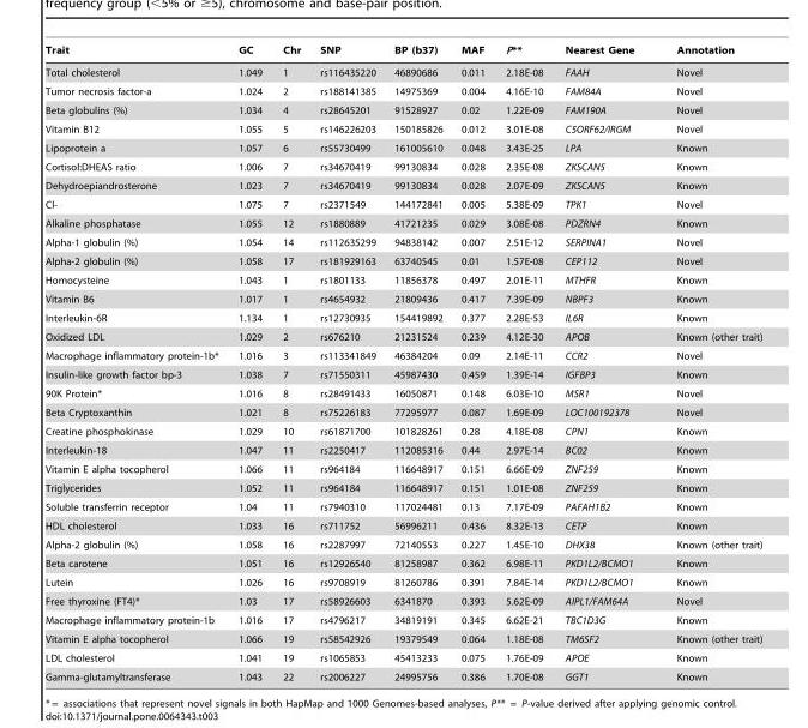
<table><thead><tr><td>Trait</td><td>GC</td><td>Chr</td><td>SNP</td><td>BP (b37)</td><td>MAF</td><td>P**</td><td>Nearest Gene</td><td>Annotation</td></tr></thead><tbody><tr><td>Total cholesterol</td><td>1.049</td><td>1</td><td>rs116435220</td><td>46890686</td><td>0.011</td><td>2.18E-08</td><td>FAAH</td><td>Novel</td></tr><tr><td>Tumor necrosis factor-a</td><td>1.024</td><td>2</td><td>rs188141385</td><td>14975369</td><td>0.004</td><td>4.16E-10</td><td>FAM84A</td><td>Novel</td></tr><tr><td>Beta globulins (%)</td><td>1.034</td><td>4</td><td>rs28645201</td><td>91528927</td><td>0.02</td><td>1.22E-09</td><td>FAM190A</td><td>Novel</td></tr><tr><td>Vitamin B12</td><td>1.055</td><td>5</td><td>rs146226203</td><td>150185826</td><td>0.012</td><td>3.01E-08</td><td>C5ORF62/IRGM</td><td>Novel</td></tr><tr><td>Lipoprotein a</td><td>1.057</td><td>6</td><td>rs55730499</td><td>161005610</td><td>0.048</td><td>3.43E-25</td><td>LPA</td><td>Known</td></tr><tr><td>Cortisol:DHEAS ratio</td><td>1.006</td><td>7</td><td>rs34670419</td><td>99130834</td><td>0.028</td><td>2.35E-08</td><td>ZKSCAN5</td><td>Known</td></tr><tr><td>Dehydroepiandrosterone</td><td>1.023</td><td>7</td><td>rs34670419</td><td>99130834</td><td>0.028</td><td>2.07E-09</td><td>ZKSCAN5</td><td>Known</td></tr><tr><td>Cl-</td><td>1.075</td><td>7</td><td>rs2371549</td><td>144172841</td><td>0.005</td><td>5.38E-09</td><td>TPK1</td><td>Novel</td></tr><tr><td>Alkaline phosphatase</td><td>1.055</td><td>12</td><td>rs1880889</td><td>41721235</td><td>0.029</td><td>3.08E-08</td><td>PDZRN4</td><td>Known</td></tr><tr><td>Alpha-1 globulin (%)</td><td>1.054</td><td>14</td><td>rs112635299</td><td>94838142</td><td>0.007</td><td>2.51E-12</td><td>SERPINA1</td><td>Novel</td></tr><tr><td>Alpha-2 globulin (%)</td><td>1.058</td><td>17</td><td>rs181929163</td><td>63740545</td><td>0.01</td><td>1.57E-08</td><td>CEP112</td><td>Novel</td></tr><tr><td>Homocysteine</td><td>1.043</td><td>1</td><td>rs1801133</td><td>11856378</td><td>0.497</td><td>2.01E-11</td><td>MTHFR</td><td>Known</td></tr><tr><td>Vitamin B6</td><td>1.017</td><td>1</td><td>rs4654932</td><td>21809436</td><td>0.417</td><td>7.39E-09</td><td>NBPF3</td><td>Known</td></tr><tr><td>Interleukin-6R</td><td>1.134</td><td>1</td><td>rs12730935</td><td>154419892</td><td>0.377</td><td>2.28E-53</td><td>IL6R</td><td>Known</td></tr><tr><td>Oxidized LDL</td><td>1.029</td><td>2</td><td>rs676210</td><td>21231524</td><td>0.239</td><td>4.12E-30</td><td>APOB</td><td>Known (other trait)</td></tr><tr><td>Macrophage inflammatory protein-1b*</td><td>1.016</td><td>3</td><td>rs113341849</td><td>46384204</td><td>0.09</td><td>2.14E-11</td><td>CCR2</td><td>Novel</td></tr><tr><td>Insulin-like growth factor bp-3</td><td>1.038</td><td>7</td><td>rs71550311</td><td>45987430</td><td>0.459</td><td>1.39E-14</td><td>IGFBP3</td><td>Known</td></tr><tr><td>90K Protein*</td><td>1.016</td><td>8</td><td>rs28491433</td><td>16050871</td><td>0.148</td><td>6.03E-10</td><td>MSR1</td><td>Novel</td></tr><tr><td>Beta Cryptoxanthin</td><td>1.021</td><td>8</td><td>rs75226183</td><td>77295977</td><td>0.087</td><td>1.69E-09</td><td>LOC100192378</td><td>Novel</td></tr><tr><td>Creatine phosphokinase</td><td>1.029</td><td>10</td><td>rs61871700</td><td>101828261</td><td>0.28</td><td>4.18E-08</td><td>CPN1</td><td>Known</td></tr><tr><td>Interleukin-18</td><td>1.047</td><td>11</td><td>rs2250417</td><td>112085316</td><td>0.44</td><td>2.97E-14</td><td>BC02</td><td>Known</td></tr><tr><td>Vitamin E alpha tocopherol</td><td>1.066</td><td>11</td><td>rs964184</td><td>116648917</td><td>0.151</td><td>6.66E-09</td><td>ZNF259</td><td>Known</td></tr><tr><td>Triglycerides</td><td>1.052</td><td>11</td><td>rs964184</td><td>116648917</td><td>0.151</td><td>1.01E-08</td><td>ZNF259</td><td>Known</td></tr><tr><td>Soluble transferrin receptor</td><td>1.04</td><td>11</td><td>rs7940310</td><td>117024481</td><td>0.13</td><td>7.17E-09</td><td>PAFAH1B2</td><td>Known</td></tr><tr><td>HDL cholesterol</td><td>1.033</td><td>16</td><td>rs711752</td><td>56996211</td><td>0.436</td><td>8.32E-13</td><td>CETP</td><td>Known</td></tr><tr><td>Alpha-2 globulin (%)</td><td>1.058</td><td>16</td><td>rs2287997</td><td>72140553</td><td>0.227</td><td>1.45E-10</td><td>DHX38</td><td>Known (other trait)</td></tr><tr><td>Beta carotene</td><td>1.051</td><td>16</td><td>rs12926540</td><td>81258987</td><td>0.362</td><td>6.98E-11</td><td>PKD1L2/BCMO1</td><td>Known</td></tr><tr><td>Lutein</td><td>1.026</td><td>16</td><td>rs9708919</td><td>81260786</td><td>0.391</td><td>7.84E-14</td><td>PKD1L2/BCMO1</td><td>Known</td></tr><tr><td>Free thyroxine (FT4)*</td><td>1.03</td><td>17</td><td>rs58926603</td><td>6341870</td><td>0.393</td><td>5.62E-09</td><td>AIPL1/FAM64A</td><td>Novel</td></tr><tr><td>Macrophage inflammatory protein-1b</td><td>1.016</td><td>17</td><td>rs4796217</td><td>34819191</td><td>0.345</td><td>6.62E-21</td><td>TBC1D3G</td><td>Known</td></tr><tr><td>Vitamin E alpha tocopherol</td><td>1.066</td><td>19</td><td>rs58542926</td><td>19379549</td><td>0.064</td><td>1.18E-08</td><td>TM6SF2</td><td>Known (other trait)</td></tr><tr><td>LDL cholesterol</td><td>1.041</td><td>19</td><td>rs1065853</td><td>45413233</td><td>0.075</td><td>1.76E-09</td><td>APOE</td><td>Known</td></tr><tr><td>Gamma-glutamyltransferase</td><td>1.043</td><td>22</td><td>rs2006227</td><td>24995756</td><td>0.386</td><td>1.70E-08</td><td>GGT1</td><td>Known</td></tr></tbody></table>